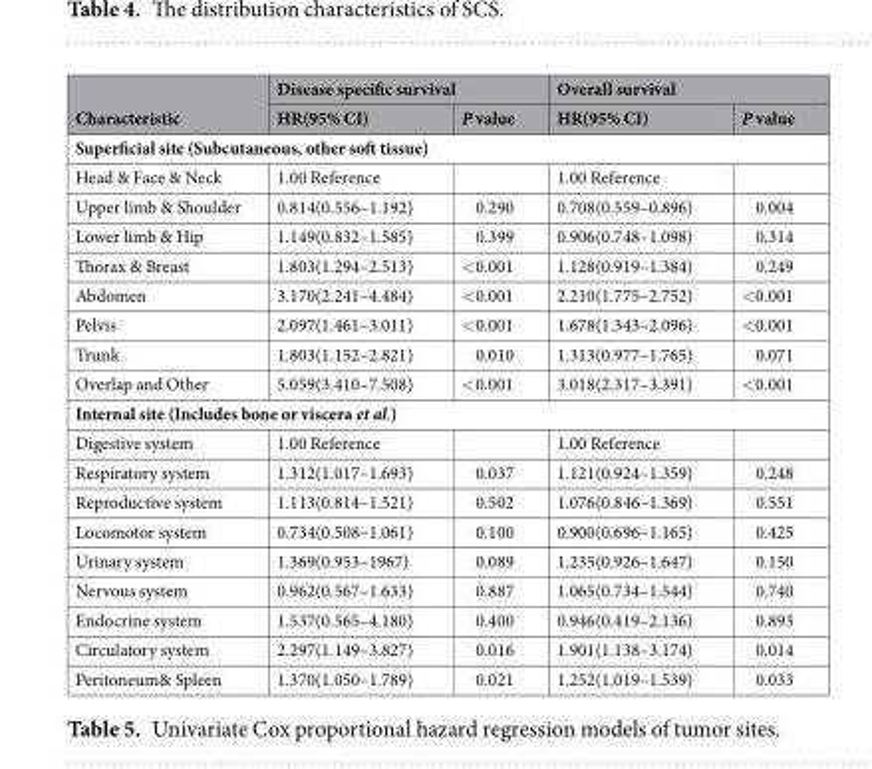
<table><thead><tr><td rowspan="2">Characteristic</td><td colspan="2">Disease specific survival</td><td colspan="2">Overall survival</td></tr><tr><td>HR(95% CI)</td><td>P value</td><td>HR(95% CI)</td><td>P value</td></tr></thead><tbody><tr><td colspan="5">Superficial site (Subcutaneous, other soft tissue)</td></tr><tr><td>Head &amp; Face &amp; Neck</td><td>1.00 Reference</td><td></td><td>1.00 Reference</td><td></td></tr><tr><td>Upper limb &amp; Shoulder</td><td>0.814(0.556–1.192)</td><td>0.290</td><td>0.708(0.559–0.896)</td><td>0.004</td></tr><tr><td>Lower limb &amp; Hip</td><td>1.149(0.832–1.585)</td><td>0.399</td><td>0.906(0.748–1.098)</td><td>0.314</td></tr><tr><td>Thorax &amp; Breast</td><td>1.803(1.294–2.513)</td><td>&lt;0.001</td><td>1.128(0.919–1.384)</td><td>0.249</td></tr><tr><td>Abdomen</td><td>3.170(2.241–4.484)</td><td>&lt;0.001</td><td>2.210(1.775–2.752)</td><td>&lt;0.001</td></tr><tr><td>Pelvis</td><td>2.097(1.461–3.011)</td><td>&lt;0.001</td><td>1.678(1.343–2.096)</td><td>&lt;0.001</td></tr><tr><td>Trunk</td><td>1.803(1.152–2.821)</td><td>0.010</td><td>1.313(0.977–1.765)</td><td>0.071</td></tr><tr><td>Overlap and Other</td><td>5.059(3.410–7.508)</td><td>&lt;0.001</td><td>3.018(2.317–3.391)</td><td>&lt;0.001</td></tr><tr><td colspan="5">Internal site (Includes bone or viscera et al.)</td></tr><tr><td>Digestive system</td><td>1.00 Reference</td><td></td><td>1.00 Reference</td><td></td></tr><tr><td>Respiratory system</td><td>1.312(1.017–1.693)</td><td>0.037</td><td>1.121(0.924–1.359)</td><td>0.248</td></tr><tr><td>Reproductive system</td><td>1.113(0.814–1.521)</td><td>0.502</td><td>1.076(0.846–1.369)</td><td>0.551</td></tr><tr><td>Locomotor system</td><td>0.734(0.508–1.061)</td><td>0.100</td><td>0.900(0.696–1.165)</td><td>0.425</td></tr><tr><td>Urinary system</td><td>1.369(0.953–1967)</td><td>0.089</td><td>1.235(0.926–1.647)</td><td>0.150</td></tr><tr><td>Nervous system</td><td>0.962(0.567–1.633)</td><td>0.887</td><td>1.065(0.734–1.544)</td><td>0.740</td></tr><tr><td>Endocrine system</td><td>1.537(0.565–4.180)</td><td>0.400</td><td>0.946(0.419–2.136)</td><td>0.893</td></tr><tr><td>Circulatory system</td><td>2.297(1.149–3.827)</td><td>0.016</td><td>1.901(1.138–3.174)</td><td>0.014</td></tr><tr><td>Peritoneum&amp; Spleen</td><td>1.370(1.050–1.789)</td><td>0.021</td><td>1.252(1.019–1.539)</td><td>0.033</td></tr></tbody></table>